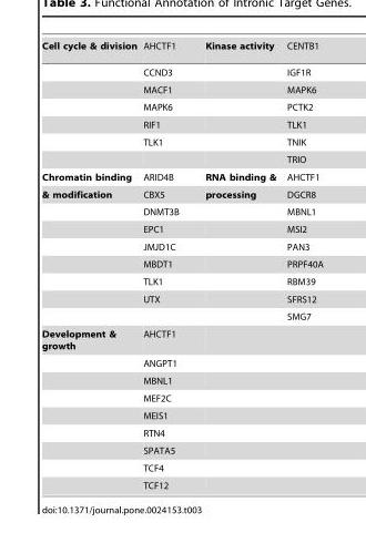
<table><tbody><tr><td rowspan="7">Cell cycle &amp; division</td><td>AHCTF1</td><td>Kinase activity</td><td>CENTB1</td></tr><tr><td>CCND3</td><td></td><td>IGF1R</td></tr><tr><td>MACF1</td><td></td><td>MAPK6</td></tr><tr><td>MAPK6</td><td></td><td>PCTK2</td></tr><tr><td>RIF1</td><td></td><td>TLK1</td></tr><tr><td>TLK1</td><td></td><td>TNIK</td></tr><tr><td></td><td></td><td>TRIO</td></tr><tr><td>Chromatin binding</td><td>ARID4B</td><td>RNA binding &amp;</td><td>AHCTF1</td></tr><tr><td rowspan="8">&amp; modification</td><td>CBX5</td><td>processing</td><td>DGCR8</td></tr><tr><td>DNMT3B</td><td></td><td>MBNL1</td></tr><tr><td>EPC1</td><td></td><td>MSI2</td></tr><tr><td>JMJD1C</td><td></td><td>PAN3</td></tr><tr><td>MBDT1</td><td></td><td>PRPF40A</td></tr><tr><td>TLK1</td><td></td><td>RBM39</td></tr><tr><td>UTX</td><td></td><td>SFRS12</td></tr><tr><td></td><td></td><td>SMG7</td></tr><tr><td rowspan="9">Development &amp; growth</td><td>AHCTF1</td><td></td><td></td></tr><tr><td>ANGPT1</td><td></td><td></td></tr><tr><td>MBNL1</td><td></td><td></td></tr><tr><td>MEF2C</td><td></td><td></td></tr><tr><td>MEIS1</td><td></td><td></td></tr><tr><td>RTN4</td><td></td><td></td></tr><tr><td>SPATA5</td><td></td><td></td></tr><tr><td>TCF4</td><td></td><td></td></tr><tr><td>TCF12</td><td></td><td></td></tr></tbody></table>